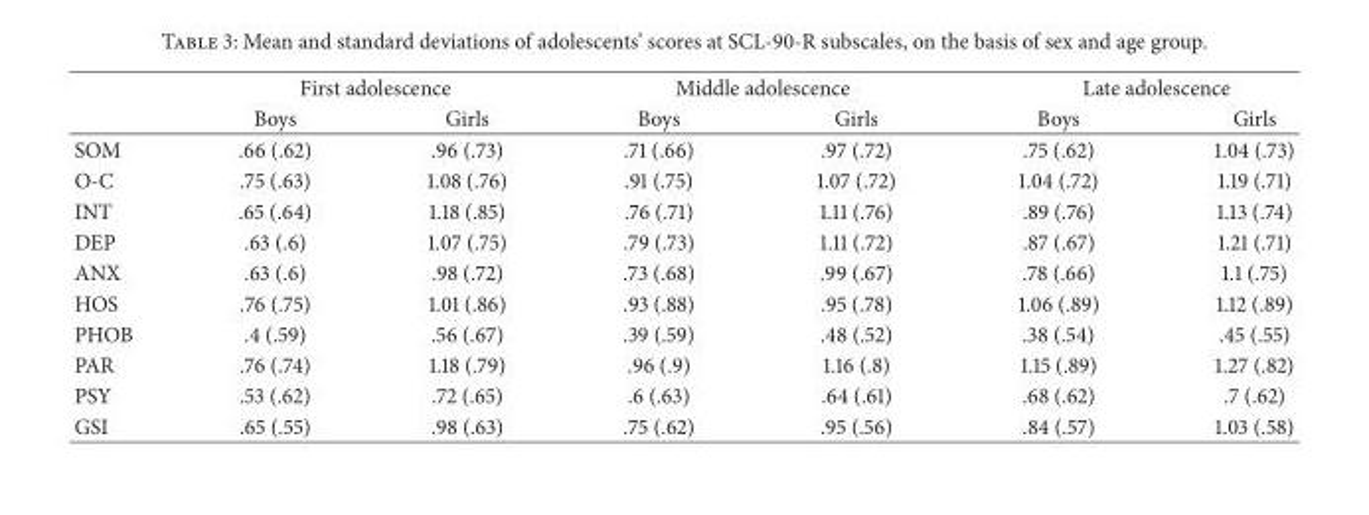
<table><thead><tr><td rowspan="2"></td><td colspan="2">First adolescence</td><td colspan="2">Middle adolescence</td><td colspan="2">Late adolescence</td></tr><tr><td>Boys</td><td>Girls</td><td>Boys</td><td>Girls</td><td>Boys</td><td>Girls</td></tr></thead><tbody><tr><td>SOM</td><td>.66 (.62)</td><td>.96 (.73)</td><td>.71 (.66)</td><td>.97 (.72)</td><td>.75 (.62)</td><td>1.04 (.73)</td></tr><tr><td>O-C</td><td>.75 (.63)</td><td>1.08 (.76)</td><td>.91 (.75)</td><td>1.07 (.72)</td><td>1.04 (.72)</td><td>1.19 (.71)</td></tr><tr><td>INT</td><td>.65 (.64)</td><td>1.18 (.85)</td><td>.76 (.71)</td><td>1.11 (.76)</td><td>.89 (.76)</td><td>1.13 (.74)</td></tr><tr><td>DEP</td><td>.63 (.6)</td><td>1.07 (.75)</td><td>.79 (.73)</td><td>1.11 (.72)</td><td>.87 (.67)</td><td>1.21 (.71)</td></tr><tr><td>ANX</td><td>.63 (.6)</td><td>.98 (.72)</td><td>.73 (.68)</td><td>.99 (.67)</td><td>.78 (.66)</td><td>1.1 (.75)</td></tr><tr><td>HOS</td><td>.76 (.75)</td><td>1.01 (.86)</td><td>.93 (.88)</td><td>.95 (.78)</td><td>1.06 (.89)</td><td>1.12 (.89)</td></tr><tr><td>PHOB</td><td>.4 (.59)</td><td>.56 (.67)</td><td>.39 (.59)</td><td>.48 (.52)</td><td>.38 (.54)</td><td>.45 (.55)</td></tr><tr><td>PAR</td><td>.76 (.74)</td><td>1.18 (.79)</td><td>.96 (.9)</td><td>1.16 (.8)</td><td>1.15 (.89)</td><td>1.27 (.82)</td></tr><tr><td>PSY</td><td>.53 (.62)</td><td>.72 (.65)</td><td>.6 (.63)</td><td>.64 (.61)</td><td>.68 (.62)</td><td>.7 (.62)</td></tr><tr><td>GSI</td><td>.65 (.55)</td><td>.98 (.63)</td><td>.75 (.62)</td><td>.95 (.56)</td><td>.84 (.57)</td><td>1.03 (.58)</td></tr></tbody></table>